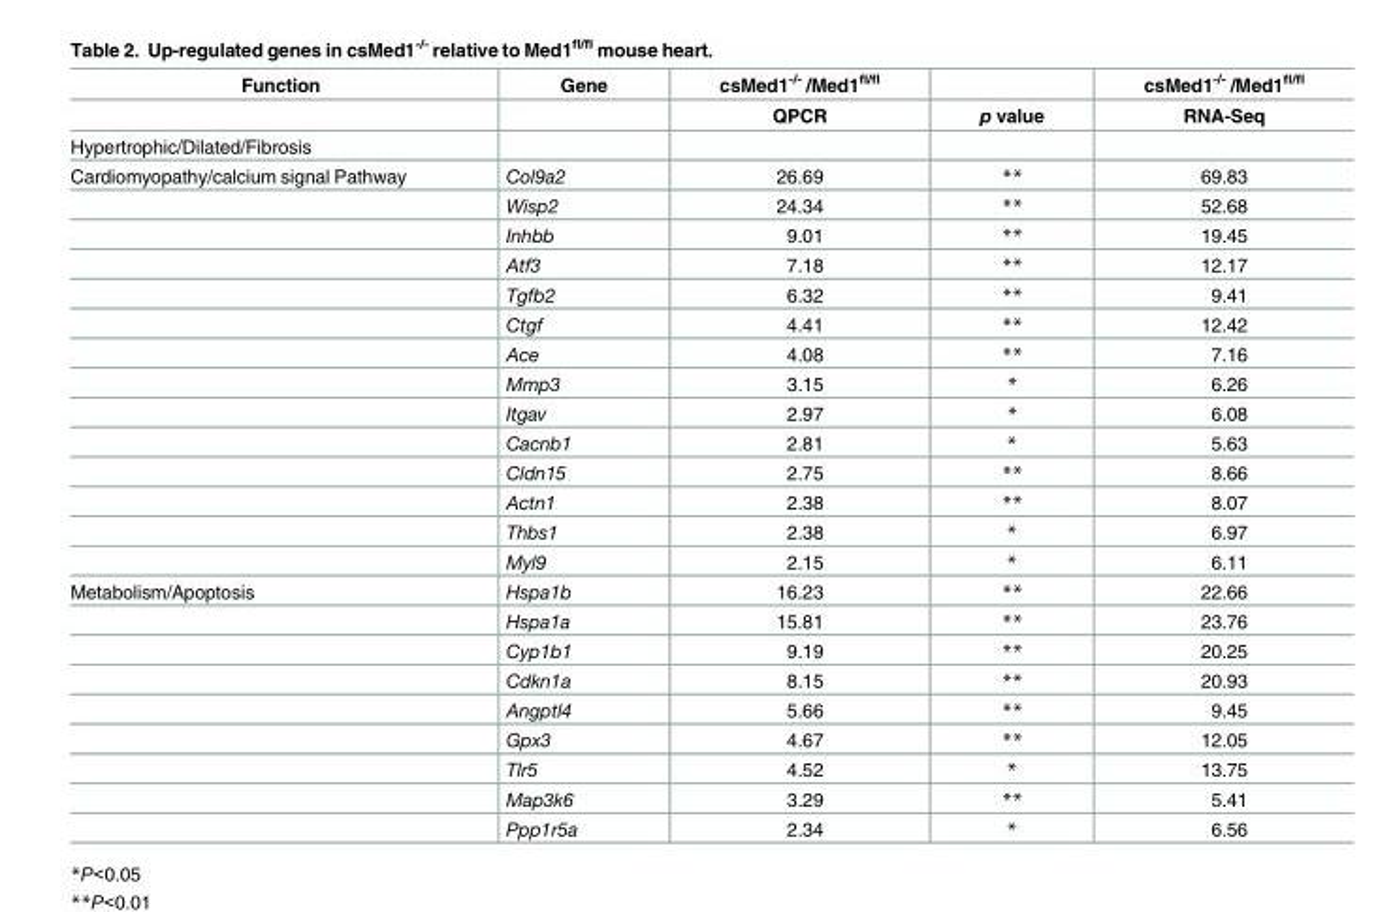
<table><thead><tr><td rowspan="2">Function</td><td rowspan="2">Gene</td><td rowspan="2">csMed1<sup>-/-</sup> /Med1<sup>fl/fl</sup> QPCR</td><td rowspan="2">p value</td><td rowspan="2">csMed1<sup>-/-</sup> /Med1<sup>fl/fl</sup> RNA-Seq</td></tr><tr></tr></thead><tbody><tr><td colspan="5">Hypertrophic/Dilated/Fibrosis</td></tr><tr><td rowspan="14">Cardiomyopathy/calcium signal Pathway</td><td>Col9a2</td><td>26.69</td><td>**</td><td>69.83</td></tr><tr><td>Wisp2</td><td>24.34</td><td>**</td><td>52.68</td></tr><tr><td>Inhbb</td><td>9.01</td><td>**</td><td>19.45</td></tr><tr><td>Atf3</td><td>7.18</td><td>**</td><td>12.17</td></tr><tr><td>Tgfb2</td><td>6.32</td><td>**</td><td>9.41</td></tr><tr><td>Ctgf</td><td>4.41</td><td>**</td><td>12.42</td></tr><tr><td>Ace</td><td>4.08</td><td>**</td><td>7.16</td></tr><tr><td>Mmp3</td><td>3.15</td><td>*</td><td>6.26</td></tr><tr><td>Itgav</td><td>2.97</td><td>*</td><td>6.08</td></tr><tr><td>Cacnb1</td><td>2.81</td><td>*</td><td>5.63</td></tr><tr><td>Cldn15</td><td>2.75</td><td>**</td><td>8.66</td></tr><tr><td>Actn1</td><td>2.38</td><td>**</td><td>8.07</td></tr><tr><td>Thbs1</td><td>2.38</td><td>*</td><td>6.97</td></tr><tr><td>Myl9</td><td>2.15</td><td>*</td><td>6.11</td></tr><tr><td rowspan="9">Metabolism/Apoptosis</td><td>Hspa1b</td><td>16.23</td><td>**</td><td>22.66</td></tr><tr><td>Hspa1a</td><td>15.81</td><td>**</td><td>23.76</td></tr><tr><td>Cyp1b1</td><td>9.19</td><td>**</td><td>20.25</td></tr><tr><td>Cdkn1a</td><td>8.15</td><td>**</td><td>20.93</td></tr><tr><td>Angptl4</td><td>5.66</td><td>**</td><td>9.45</td></tr><tr><td>Gpx3</td><td>4.67</td><td>**</td><td>12.05</td></tr><tr><td>Tlr5</td><td>4.52</td><td>*</td><td>13.75</td></tr><tr><td>Map3k6</td><td>3.29</td><td>**</td><td>5.41</td></tr><tr><td>Ppp1r5a</td><td>2.34</td><td>*</td><td>6.56</td></tr></tbody></table>